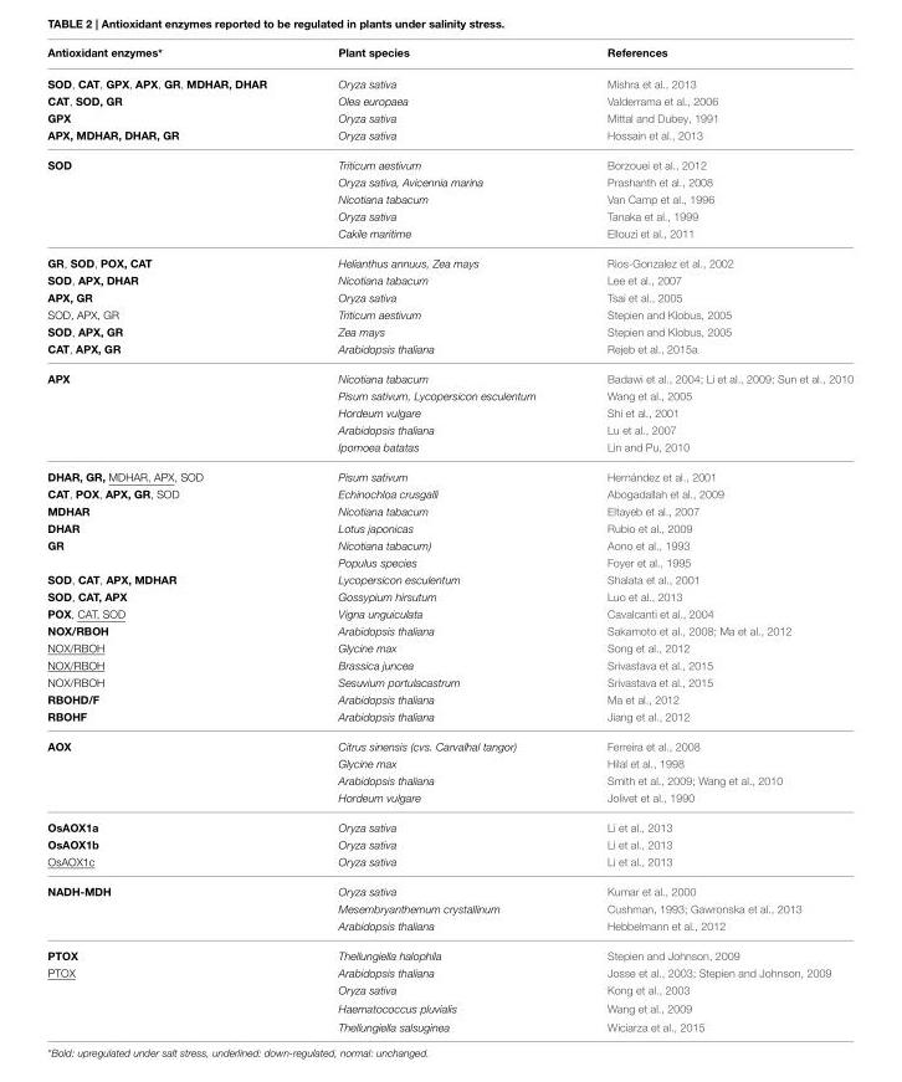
<table><thead><tr><td>Antioxidant enzymes*</td><td>Plant species</td><td>References</td></tr></thead><tbody><tr><td>SOD, CAT, GPX, APX, GR, MDHAR, DHAR</td><td>Oryza sativa</td><td>Mishra et al., 2013</td></tr><tr><td>CAT, SOD, GR</td><td>Olea europaea</td><td>Valderrama et al., 2006</td></tr><tr><td>GPX</td><td>Oryza sativa</td><td>Mittal and Dubey, 1991</td></tr><tr><td>APX, MDHAR, DHAR, GR</td><td>Oryza sativa</td><td>Hossain et al., 2013</td></tr><tr><td rowspan="5">SOD</td><td>Triticum aestivum</td><td>Borzouei et al., 2012</td></tr><tr><td>Oryza sativa, Avicennia marina</td><td>Prashanth et al., 2008</td></tr><tr><td>Nicotiana tabacum</td><td>Van Camp et al., 1996</td></tr><tr><td>Oryza sativa</td><td>Tanaka et al., 1999</td></tr><tr><td>Cakile maritime</td><td>Ellouzi et al., 2011</td></tr><tr><td>GR, SOD, POX, CAT</td><td>Helianthus annuus, Zea mays</td><td>Rios-Gonzalez et al., 2002</td></tr><tr><td>SOD, APX, DHAR</td><td>Nicotiana tabacum</td><td>Lee et al., 2007</td></tr><tr><td>APX, GR</td><td>Oryza sativa</td><td>Tsai et al., 2005</td></tr><tr><td>SOD, APX, GR</td><td>Triticum aestivum</td><td>Stepien and Klobus, 2005</td></tr><tr><td>SOD, APX, GR</td><td>Zea mays</td><td>Stepien and Klobus, 2005</td></tr><tr><td>CAT, APX, GR</td><td>Arabidopsis thaliana</td><td>Rejeb et al., 2015a</td></tr><tr><td rowspan="5">APX</td><td>Nicotiana tabacum</td><td>Badawi et al., 2004; Li et al., 2009; Sun et al., 2010</td></tr><tr><td>Pisum sativum, Lycopersicon esculentum</td><td>Wang et al., 2005</td></tr><tr><td>Hordeum vulgare</td><td>Shi et al., 2001</td></tr><tr><td>Arabidopsis thaliana</td><td>Lu et al., 2007</td></tr><tr><td>Ipomoea batatas</td><td>Lin and Pu, 2010</td></tr><tr><td>DHAR, GR, MDHAR, APX, SOD</td><td>Pisum sativum</td><td>Hernández et al., 2001</td></tr><tr><td>CAT, POX, APX, GR, SOD</td><td>Echinochloa crusgalli</td><td>Abogadallah et al., 2009</td></tr><tr><td>MDHAR</td><td>Nicotiana tabacum</td><td>Eltayeb et al., 2007</td></tr><tr><td>DHAR</td><td>Lotus japonicas</td><td>Rubio et al., 2009</td></tr><tr><td rowspan="2">GR</td><td>Nicotiana tabacum)</td><td>Aono et al., 1993</td></tr><tr><td>Populus species</td><td>Foyer et al., 1995</td></tr><tr><td>SOD, CAT, APX, MDHAR</td><td>Lycopersicon esculentum</td><td>Shalata et al., 2001</td></tr><tr><td>SOD, CAT, APX</td><td>Gossypium hirsutum</td><td>Luo et al., 2013</td></tr><tr><td>POX, CAT, SOD</td><td>Vigna unguiculata</td><td>Cavalcanti et al., 2004</td></tr><tr><td>NOX/RBOH</td><td>Arabidopsis thaliana</td><td>Sakamoto et al., 2008; Ma et al., 2012</td></tr><tr><td>NOX/RBOH</td><td>Glycine max</td><td>Song et al., 2012</td></tr><tr><td>NOX/RBOH</td><td>Brassica juncea</td><td>Srivastava et al., 2015</td></tr><tr><td>NOX/RBOH</td><td>Sesuvium portulacastrum</td><td>Srivastava et al., 2015</td></tr><tr><td>RBOHD/F</td><td>Arabidopsis thaliana</td><td>Ma et al., 2012</td></tr><tr><td>RBOHF</td><td>Arabidopsis thaliana</td><td>Jiang et al., 2012</td></tr><tr><td rowspan="4">AOX</td><td>Citrus sinensis (cvs. Carvalhal tangor)</td><td>Ferreira et al., 2008</td></tr><tr><td>Glycine max</td><td>Hilal et al., 1998</td></tr><tr><td>Arabidopsis thaliana</td><td>Smith et al., 2009; Wang et al., 2010</td></tr><tr><td>Hordeum vulgare</td><td>Jolivet et al., 1990</td></tr><tr><td>OsAOX1a</td><td>Oryza sativa</td><td>Li et al., 2013</td></tr><tr><td>OsAOX1b</td><td>Oryza sativa</td><td>Li et al., 2013</td></tr><tr><td>OsAOX1c</td><td>Oryza sativa</td><td>Li et al., 2013</td></tr><tr><td rowspan="3">NADH-MDH</td><td>Oryza sativa</td><td>Kumar et al., 2000</td></tr><tr><td>Mesembryanthemum crystallinum</td><td>Cushman, 1993; Gawronska et al., 2013</td></tr><tr><td>Arabidopsis thaliana</td><td>Hebbelmann et al., 2012</td></tr><tr><td>PTOX</td><td>Thellungiella halophila</td><td>Stepien and Johnson, 2009</td></tr><tr><td rowspan="4">PTOX</td><td>Arabidopsis thaliana</td><td>Josse et al., 2003; Stepien and Johnson, 2009</td></tr><tr><td>Oryza sativa</td><td>Kong et al., 2003</td></tr><tr><td>Haematococcus pluvialis</td><td>Wang et al., 2009</td></tr><tr><td>Thellungiella salsuginea</td><td>Wiciarza et al., 2015</td></tr></tbody></table>